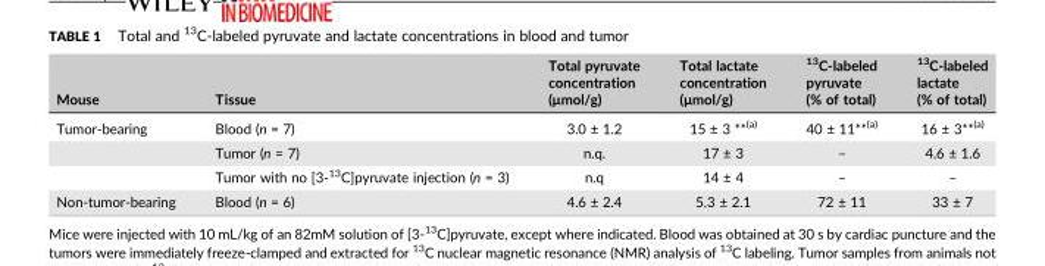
<table><thead><tr><td>Mouse</td><td>Tissue</td><td>Total pyruvate concentration (μmol/g)</td><td>Total lactate concentration (μmol/g)</td><td><sup>13</sup>C‐labeled pyruvate (% of total)</td><td><sup>13</sup>C‐labeled lactate (% of total)</td></tr></thead><tbody><tr><td rowspan="3">Tumor‐bearing</td><td>Blood (n = 7)</td><td>3.0 ± 1.2</td><td>15 ± 3 **<sup>(</sup>a<sup>)</sup></td><td>40 ± 11**<sup>(</sup>a<sup>)</sup></td><td>16 ± 3**<sup>(</sup>a<sup>)</sup></td></tr><tr><td>Tumor (n = 7)</td><td>n.q.</td><td>17 ± 3</td><td>–</td><td>4.6 ± 1.6</td></tr><tr><td>Tumor with no [3‐<sup>13</sup>C]pyruvate injection (n = 3)</td><td>n.q</td><td>14 ± 4</td><td>–</td><td>–</td></tr><tr><td>Non‐tumor‐bearing</td><td>Blood (n = 6)</td><td>4.6 ± 2.4</td><td>5.3 ± 2.1</td><td>72 ± 11</td><td>33 ± 7</td></tr></tbody></table>